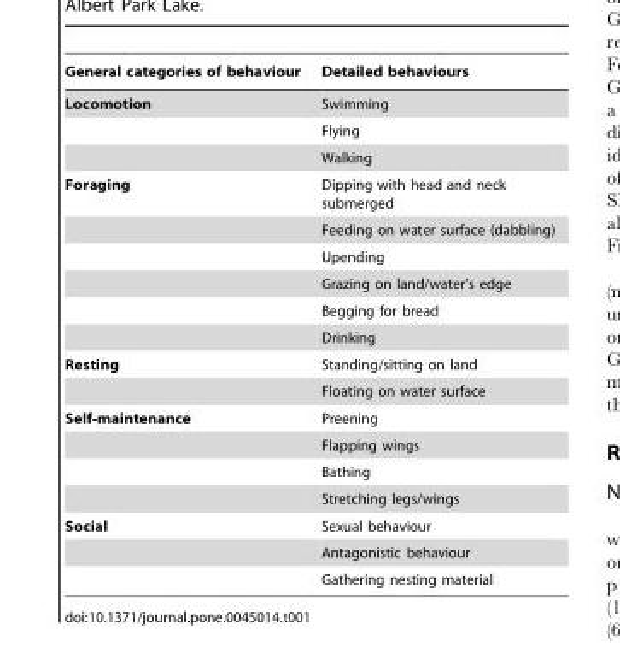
<table><thead><tr><td>General categories of behaviour</td><td>Detailed behaviours</td></tr></thead><tbody><tr><td rowspan="3">Locomotion</td><td>Swimming</td></tr><tr><td>Flying</td></tr><tr><td>Walking</td></tr><tr><td rowspan="6">Foraging</td><td>Dipping with head and neck submerged</td></tr><tr><td>Feeding on water surface (dabbling)</td></tr><tr><td>Upending</td></tr><tr><td>Grazing on land/water’s edge</td></tr><tr><td>Begging for bread</td></tr><tr><td>Drinking</td></tr><tr><td rowspan="2">Resting</td><td>Standing/sitting on land</td></tr><tr><td>Floating on water surface</td></tr><tr><td rowspan="4">Self-maintenance</td><td>Preening</td></tr><tr><td>Flapping wings</td></tr><tr><td>Bathing</td></tr><tr><td>Stretching legs/wings</td></tr><tr><td rowspan="3">Social</td><td>Sexual behaviour</td></tr><tr><td>Antagonistic behaviour</td></tr><tr><td>Gathering nesting material</td></tr></tbody></table>